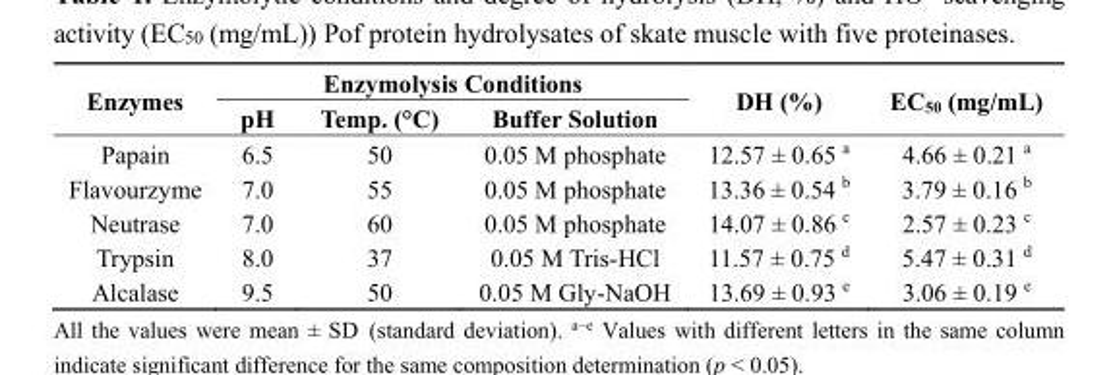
<table><thead><tr><td rowspan="2">Enzymes</td><td colspan="3">Enzymolysis Conditions</td><td rowspan="2">DH (%)</td><td rowspan="2">EC<sub>50</sub> (mg/mL)</td></tr><tr><td>pH</td><td>Temp. (°C)</td><td>Buffer Solution</td></tr></thead><tbody><tr><td>Papain</td><td>6.5</td><td>50</td><td>0.05 M phosphate</td><td>12.57 ± 0.65 <sup>a</sup></td><td>4.66 ± 0.21 <sup>a</sup></td></tr><tr><td>Flavourzyme</td><td>7.0</td><td>55</td><td>0.05 M phosphate</td><td>13.36 ± 0.54 <sup>b</sup></td><td>3.79 ± 0.16 <sup>b</sup></td></tr><tr><td>Neutrase</td><td>7.0</td><td>60</td><td>0.05 M phosphate</td><td>14.07 ± 0.86 <sup>c</sup></td><td>2.57 ± 0.23 <sup>c</sup></td></tr><tr><td>Trypsin</td><td>8.0</td><td>37</td><td>0.05 M Tris-HCl</td><td>11.57 ± 0.75 <sup>d</sup></td><td>5.47 ± 0.31 <sup>d</sup></td></tr><tr><td>Alcalase</td><td>9.5</td><td>50</td><td>0.05 M Gly-NaOH</td><td>13.69 ± 0.93 <sup>e</sup></td><td>3.06 ± 0.19 <sup>e</sup></td></tr></tbody></table>